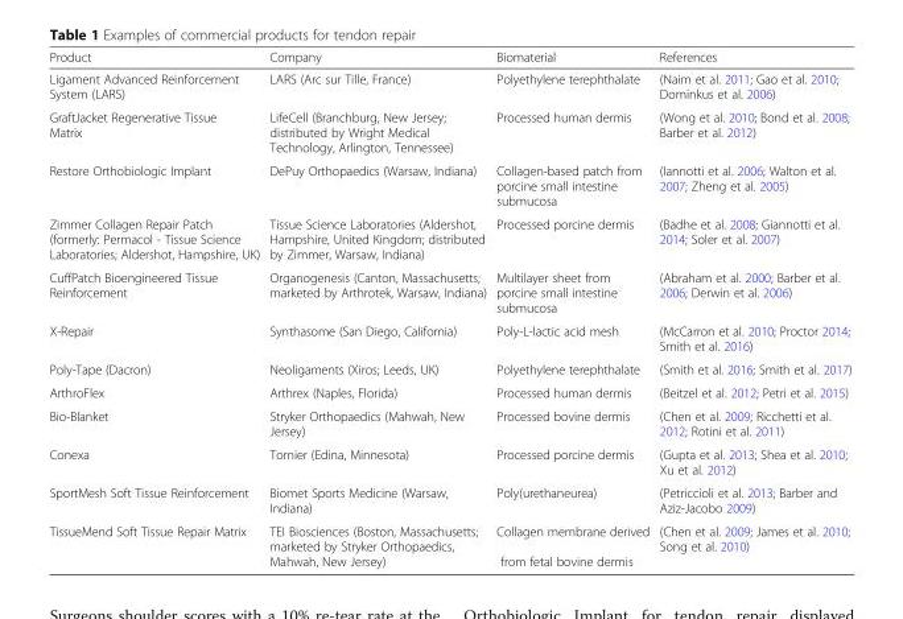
<table><thead><tr><td>Product</td><td>Company</td><td>Biomaterial</td><td>References</td></tr></thead><tbody><tr><td>Ligament Advanced Reinforcement System (LARS)</td><td>LARS (Arc sur Tille, France)</td><td>Polyethylene terephthalate</td><td>(Naim et al. 2011; Gao et al. 2010; Dominkus et al. 2006)</td></tr><tr><td>GraftJacket Regenerative Tissue Matrix</td><td>LifeCell (Branchburg, New Jersey; distributed by Wright Medical Technology, Arlington, Tennessee)</td><td>Processed human dermis</td><td>(Wong et al. 2010; Bond et al. 2008; Barber et al. 2012)</td></tr><tr><td>Restore Orthobiologic Implant</td><td>DePuy Orthopaedics (Warsaw, Indiana)</td><td>Collagen-based patch from porcine small intestine submucosa</td><td>(Iannotti et al. 2006; Walton et al. 2007; Zheng et al. 2005)</td></tr><tr><td>Zimmer Collagen Repair Patch (formerly: Permacol - Tissue Science Laboratories; Aldershot, Hampshire, UK)</td><td>Tissue Science Laboratories (Aldershot, Hampshire, United Kingdom; distributed by Zimmer, Warsaw, Indiana)</td><td>Processed porcine dermis</td><td>(Badhe et al. 2008; Giannotti et al. 2014; Soler et al. 2007)</td></tr><tr><td>CuffPatch Bioengineered Tissue Reinforcement</td><td>Organogenesis (Canton, Massachusetts; marketed by Arthrotek, Warsaw, Indiana)</td><td>Multilayer sheet from porcine small intestine submucosa</td><td>(Abraham et al. 2000; Barber et al. 2006; Derwin et al. 2006)</td></tr><tr><td>X-Repair</td><td>Synthasome (San Diego, California)</td><td>Poly-L-lactic acid mesh</td><td>(McCarron et al. 2010; Proctor 2014; Smith et al. 2016)</td></tr><tr><td>Poly-Tape (Dacron)</td><td>Neoligaments (Xiros; Leeds, UK)</td><td>Polyethylene terephthalate</td><td>(Smith et al. 2016; Smith et al. 2017)</td></tr><tr><td>ArthroFlex</td><td>Arthrex (Naples, Florida)</td><td>Processed human dermis</td><td>(Beitzel et al. 2012; Petri et al. 2015)</td></tr><tr><td>Bio-Blanket</td><td>Stryker Orthopaedics (Mahwah, New Jersey)</td><td>Processed bovine dermis</td><td>(Chen et al. 2009; Ricchetti et al. 2012; Rotini et al. 2011)</td></tr><tr><td>Conexa</td><td>Tornier (Edina, Minnesota)</td><td>Processed porcine dermis</td><td>(Gupta et al. 2013; Shea et al. 2010; Xu et al. 2012)</td></tr><tr><td>SportMesh Soft Tissue Reinforcement</td><td>Biomet Sports Medicine (Warsaw, Indiana)</td><td>Poly(urethaneurea)</td><td>(Petriccioli et al. 2013; Barber and Aziz-Jacobo 2009)</td></tr><tr><td>TissueMend Soft Tissue Repair Matrix</td><td>TEI Biosciences (Boston, Massachusetts; marketed by Stryker Orthopaedics, Mahwah, New Jersey)</td><td>Collagen membrane derived from fetal bovine dermis</td><td>(Chen et al. 2009; James et al. 2010; Song et al. 2010)</td></tr></tbody></table>